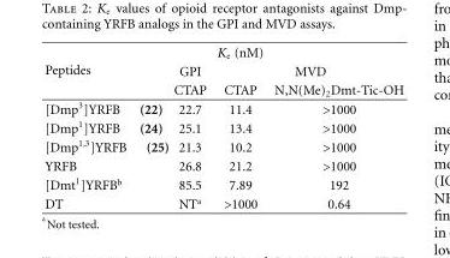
<table><tbody><tr><td rowspan="3">Peptides</td><td></td><td>K<sub>e</sub> (nM)</td><td></td></tr><tr><td>GPI</td><td colspan="2">MVD</td></tr><tr><td>CTAP</td><td>CTAP</td><td>N,N(Me)<sub>2</sub>Dmt-Tic-OH</td></tr><tr><td>[Dmp<sup>3</sup>]YRFB (22)</td><td>22.7</td><td>11.4</td><td>&gt;1000</td></tr><tr><td>[Dmp<sup>1</sup>]YRFB (24)</td><td>25.1</td><td>13.4</td><td>&gt;1000</td></tr><tr><td>[Dmp<sup>1,3</sup>]YRFB (25)</td><td>21.3</td><td>10.2</td><td>&gt;1000</td></tr><tr><td>YRFB</td><td>26.8</td><td>21.2</td><td>&gt;1000</td></tr><tr><td>[Dmt<sup>1</sup>]YRFB<sup>b</sup></td><td>85.5</td><td>7.89</td><td>192</td></tr><tr><td>DT</td><td>NT<sup>a</sup></td><td>&gt;1000</td><td>0.64</td></tr></tbody></table>